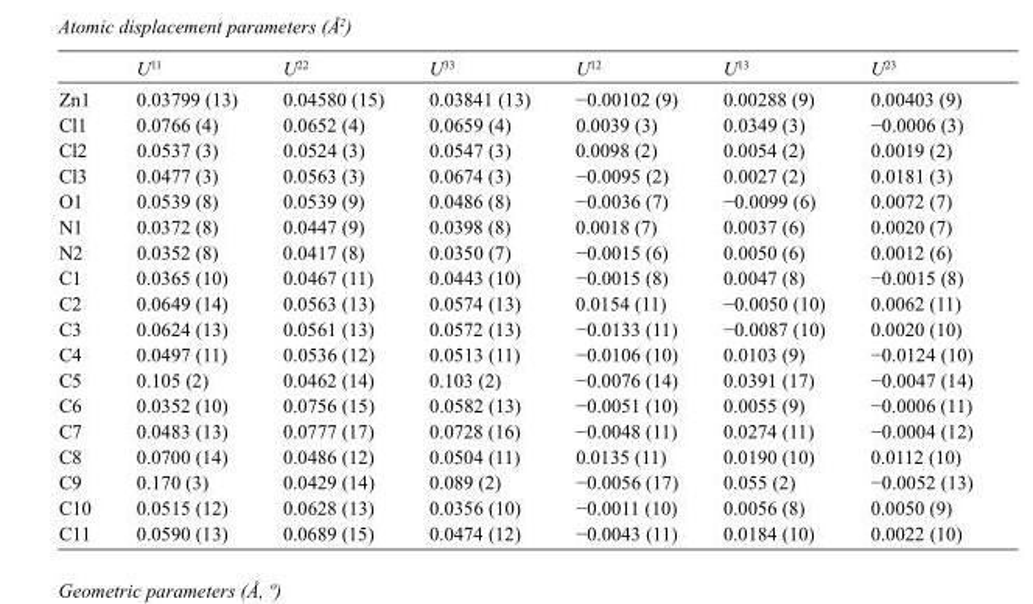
<table><thead><tr><td></td><td>U<sup>11</sup></td><td>U<sup>22</sup></td><td>U<sup>33</sup></td><td>U<sup>12</sup></td><td>U<sup>13</sup></td><td>U<sup>23</sup></td></tr></thead><tbody><tr><td>Zn1</td><td>0.03799 (13)</td><td>0.04580 (15)</td><td>0.03841 (13)</td><td>−0.00102 (9)</td><td>0.00288 (9)</td><td>0.00403 (9)</td></tr><tr><td>Cl1</td><td>0.0766 (4)</td><td>0.0652 (4)</td><td>0.0659 (4)</td><td>0.0039 (3)</td><td>0.0349 (3)</td><td>−0.0006 (3)</td></tr><tr><td>Cl2</td><td>0.0537 (3)</td><td>0.0524 (3)</td><td>0.0547 (3)</td><td>0.0098 (2)</td><td>0.0054 (2)</td><td>0.0019 (2)</td></tr><tr><td>Cl3</td><td>0.0477 (3)</td><td>0.0563 (3)</td><td>0.0674 (3)</td><td>−0.0095 (2)</td><td>0.0027 (2)</td><td>0.0181 (3)</td></tr><tr><td>O1</td><td>0.0539 (8)</td><td>0.0539 (9)</td><td>0.0486 (8)</td><td>−0.0036 (7)</td><td>−0.0099 (6)</td><td>0.0072 (7)</td></tr><tr><td>N1</td><td>0.0372 (8)</td><td>0.0447 (9)</td><td>0.0398 (8)</td><td>0.0018 (7)</td><td>0.0037 (6)</td><td>0.0020 (7)</td></tr><tr><td>N2</td><td>0.0352 (8)</td><td>0.0417 (8)</td><td>0.0350 (7)</td><td>−0.0015 (6)</td><td>0.0050 (6)</td><td>0.0012 (6)</td></tr><tr><td>C1</td><td>0.0365 (10)</td><td>0.0467 (11)</td><td>0.0443 (10)</td><td>−0.0015 (8)</td><td>0.0047 (8)</td><td>−0.0015 (8)</td></tr><tr><td>C2</td><td>0.0649 (14)</td><td>0.0563 (13)</td><td>0.0574 (13)</td><td>0.0154 (11)</td><td>−0.0050 (10)</td><td>0.0062 (11)</td></tr><tr><td>C3</td><td>0.0624 (13)</td><td>0.0561 (13)</td><td>0.0572 (13)</td><td>−0.0133 (11)</td><td>−0.0087 (10)</td><td>0.0020 (10)</td></tr><tr><td>C4</td><td>0.0497 (11)</td><td>0.0536 (12)</td><td>0.0513 (11)</td><td>−0.0106 (10)</td><td>0.0103 (9)</td><td>−0.0124 (10)</td></tr><tr><td>C5</td><td>0.105 (2)</td><td>0.0462 (14)</td><td>0.103 (2)</td><td>−0.0076 (14)</td><td>0.0391 (17)</td><td>−0.0047 (14)</td></tr><tr><td>C6</td><td>0.0352 (10)</td><td>0.0756 (15)</td><td>0.0582 (13)</td><td>−0.0051 (10)</td><td>0.0055 (9)</td><td>−0.0006 (11)</td></tr><tr><td>C7</td><td>0.0483 (13)</td><td>0.0777 (17)</td><td>0.0728 (16)</td><td>−0.0048 (11)</td><td>0.0274 (11)</td><td>−0.0004 (12)</td></tr><tr><td>C8</td><td>0.0700 (14)</td><td>0.0486 (12)</td><td>0.0504 (11)</td><td>0.0135 (11)</td><td>0.0190 (10)</td><td>0.0112 (10)</td></tr><tr><td>C9</td><td>0.170 (3)</td><td>0.0429 (14)</td><td>0.089 (2)</td><td>−0.0056 (17)</td><td>0.055 (2)</td><td>−0.0052 (13)</td></tr><tr><td>C10</td><td>0.0515 (12)</td><td>0.0628 (13)</td><td>0.0356 (10)</td><td>−0.0011 (10)</td><td>0.0056 (8)</td><td>0.0050 (9)</td></tr><tr><td>C11</td><td>0.0590 (13)</td><td>0.0689 (15)</td><td>0.0474 (12)</td><td>−0.0043 (11)</td><td>0.0184 (10)</td><td>0.0022 (10)</td></tr></tbody></table>